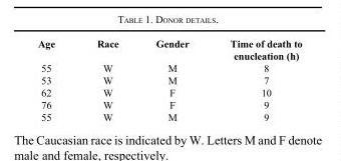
<table><tbody><tr><td>Age</td><td>Race</td><td>Gender</td><td>Time of death to enucleation (h)</td></tr><tr><td>55</td><td>W</td><td>M</td><td>8</td></tr><tr><td>53</td><td>W</td><td>M</td><td>7</td></tr><tr><td>62</td><td>W</td><td>F</td><td>10</td></tr><tr><td>76</td><td>W</td><td>F</td><td>9</td></tr><tr><td>55</td><td>W</td><td>M</td><td>9</td></tr></tbody></table>